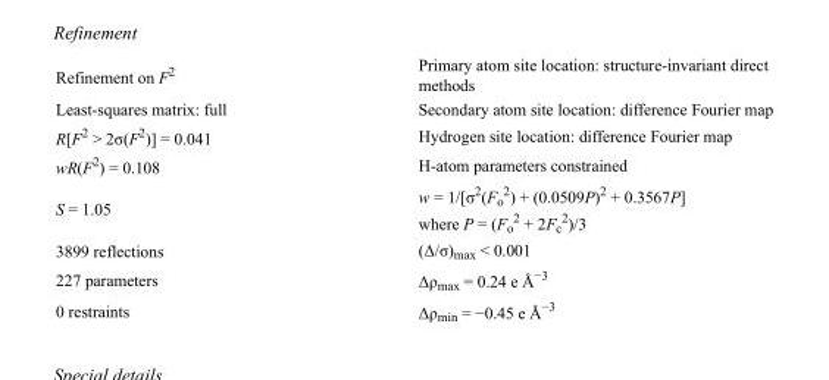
<table><tbody><tr><td>Refinement on F<sup>2</sup></td><td>Primary atom site location: structure-invariant direct methods</td></tr><tr><td>Least-squares matrix: full</td><td>Secondary atom site location: difference Fourier map</td></tr><tr><td>R[F<sup>2</sup> &gt; 2σ(F<sup>2</sup>)] = 0.041</td><td>Hydrogen site location: difference Fourier map</td></tr><tr><td>wR(F<sup>2</sup>) = 0.108</td><td>H-atom parameters constrained</td></tr><tr><td>S = 1.05</td><td>w = 1/[σ<sup>2</sup>(F<sub>o</sub> <sup>2</sup>) + (0.0509P)<sup>2</sup> + 0.3567P] where P = (F<sub>o</sub> <sup>2</sup> + 2F<sub>c</sub> <sup>2</sup>)/3</td></tr><tr><td>3899 reflections</td><td>(Δ/σ)<sub>max</sub> &lt; 0.001</td></tr><tr><td>227 parameters</td><td>Δρ<sub>max</sub> = 0.24 e Å<sup>−3</sup></td></tr><tr><td>0 restraints</td><td>Δρ<sub>min</sub> = −0.45 e Å<sup>−3</sup></td></tr></tbody></table>